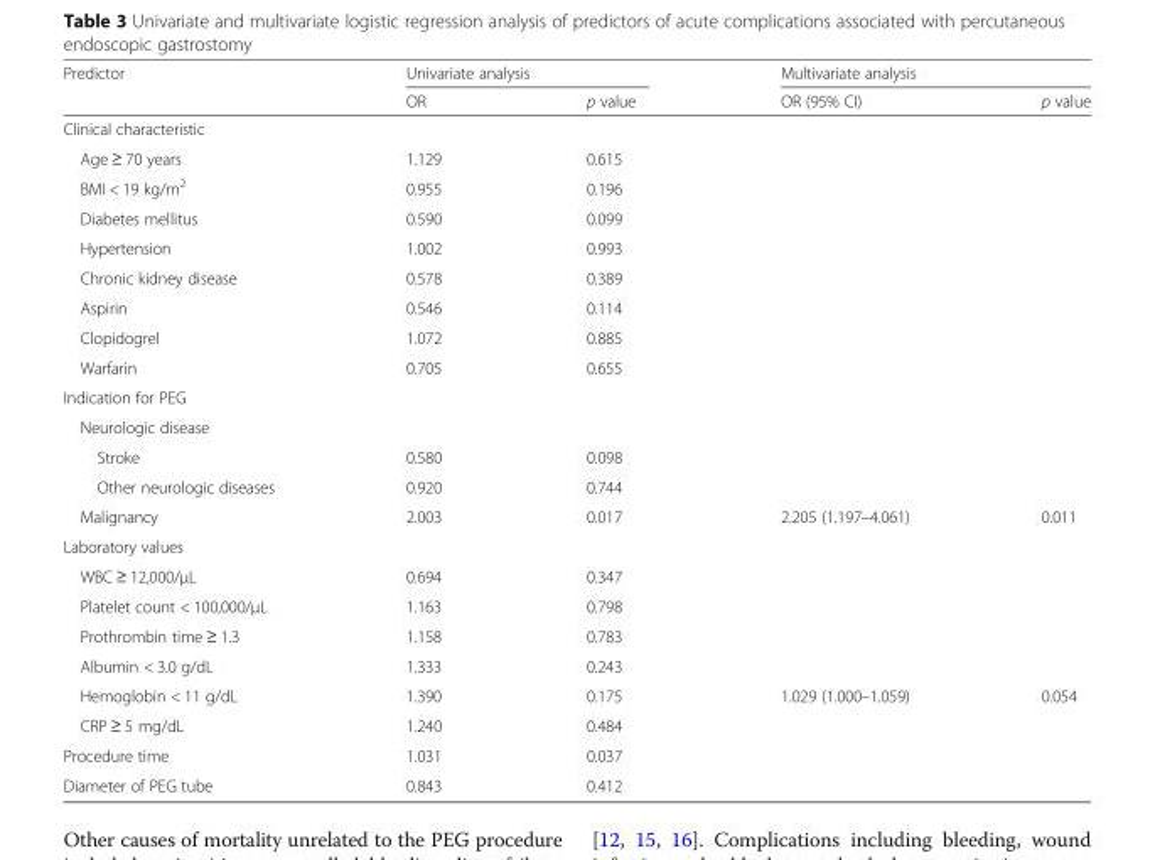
<table><thead><tr><td rowspan="2">Predictor</td><td colspan="2">Univariate analysis</td><td colspan="2">Multivariate analysis</td></tr><tr><td>OR</td><td>p value</td><td>OR (95% CI)</td><td>p value</td></tr></thead><tbody><tr><td colspan="5">Clinical characteristic</td></tr><tr><td>Age ≥ 70 years</td><td>1.129</td><td>0.615</td><td></td><td></td></tr><tr><td>BMI &lt; 19 kg/m<sup>2</sup></td><td>0.955</td><td>0.196</td><td></td><td></td></tr><tr><td>Diabetes mellitus</td><td>0.590</td><td>0.099</td><td></td><td></td></tr><tr><td>Hypertension</td><td>1.002</td><td>0.993</td><td></td><td></td></tr><tr><td>Chronic kidney disease</td><td>0.578</td><td>0.389</td><td></td><td></td></tr><tr><td>Aspirin</td><td>0.546</td><td>0.114</td><td></td><td></td></tr><tr><td>Clopidogrel</td><td>1.072</td><td>0.885</td><td></td><td></td></tr><tr><td>Warfarin</td><td>0.705</td><td>0.655</td><td></td><td></td></tr><tr><td colspan="5">Indication for PEG</td></tr><tr><td colspan="5">Neurologic disease</td></tr><tr><td>Stroke</td><td>0.580</td><td>0.098</td><td></td><td></td></tr><tr><td>Other neurologic diseases</td><td>0.920</td><td>0.744</td><td></td><td></td></tr><tr><td>Malignancy</td><td>2.003</td><td>0.017</td><td>2.205 (1.197–4.061)</td><td>0.011</td></tr><tr><td colspan="5">Laboratory values</td></tr><tr><td>WBC ≥ 12,000/μL</td><td>0.694</td><td>0.347</td><td></td><td></td></tr><tr><td>Platelet count &lt; 100,000/μL</td><td>1.163</td><td>0.798</td><td></td><td></td></tr><tr><td>Prothrombin time ≥ 1.3</td><td>1.158</td><td>0.783</td><td></td><td></td></tr><tr><td>Albumin &lt; 3.0 g/dL</td><td>1.333</td><td>0.243</td><td></td><td></td></tr><tr><td>Hemoglobin &lt; 11 g/dL</td><td>1.390</td><td>0.175</td><td>1.029 (1.000–1.059)</td><td>0.054</td></tr><tr><td>CRP ≥ 5 mg/dL</td><td>1.240</td><td>0.484</td><td></td><td></td></tr><tr><td>Procedure time</td><td>1.031</td><td>0.037</td><td></td><td></td></tr><tr><td>Diameter of PEG tube</td><td>0.843</td><td>0.412</td><td></td><td></td></tr></tbody></table>